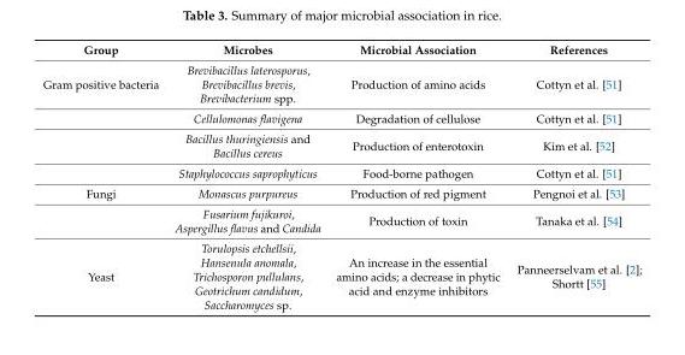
<table><thead><tr><td>Group</td><td>Microbes</td><td>Microbial Association</td><td>References</td></tr></thead><tbody><tr><td rowspan="4">Gram positive bacteria</td><td>Brevibacillus laterosporus, Brevibacillus brevis, Brevibacterium spp.</td><td>Production of amino acids</td><td>Cottyn et al. [51]</td></tr><tr><td>Cellulomonas flavigena</td><td>Degradation of cellulose</td><td>Cottyn et al. [51]</td></tr><tr><td>Bacillus thuringiensis and Bacillus cereus</td><td>Production of enterotoxin</td><td>Kim et al. [52]</td></tr><tr><td>Staphylococcus saprophyticus</td><td>Food-borne pathogen</td><td>Cottyn et al. [51]</td></tr><tr><td rowspan="2">Fungi</td><td>Monascus purpureus</td><td>Production of red pigment</td><td>Pengnoi et al. [53]</td></tr><tr><td>Fusarium fujikuroi, Aspergillus flavus and Candida</td><td>Production of toxin</td><td>Tanaka et al. [54]</td></tr><tr><td>Yeast</td><td>Torulopsis etchellsii, Hansenula anomala, Trichosporon pullulans, Geotrichum candidum, Saccharomyces sp.</td><td>An increase in the essential amino acids; a decrease in phytic acid and enzyme inhibitors</td><td>Panneerselvam et al. [2]; Shortt [55]</td></tr></tbody></table>